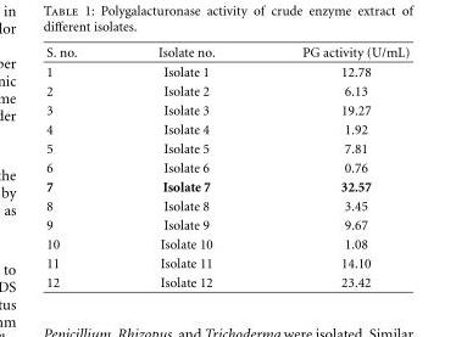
<table><thead><tr><td>S. no.</td><td>Isolate no.</td><td>PG activity (U/mL)</td></tr></thead><tbody><tr><td>1</td><td>Isolate 1</td><td>12.78</td></tr><tr><td>2</td><td>Isolate 2</td><td>6.13</td></tr><tr><td>3</td><td>Isolate 3</td><td>19.27</td></tr><tr><td>4</td><td>Isolate 4</td><td>1.92</td></tr><tr><td>5</td><td>Isolate 5</td><td>7.81</td></tr><tr><td>6</td><td>Isolate 6</td><td>0.76</td></tr><tr><td>7</td><td>Isolate 7</td><td>32.57</td></tr><tr><td>8</td><td>Isolate 8</td><td>3.45</td></tr><tr><td>9</td><td>Isolate 9</td><td>9.67</td></tr><tr><td>10</td><td>Isolate 10</td><td>1.08</td></tr><tr><td>11</td><td>Isolate 11</td><td>14.10</td></tr><tr><td>12</td><td>Isolate 12</td><td>23.42</td></tr></tbody></table>